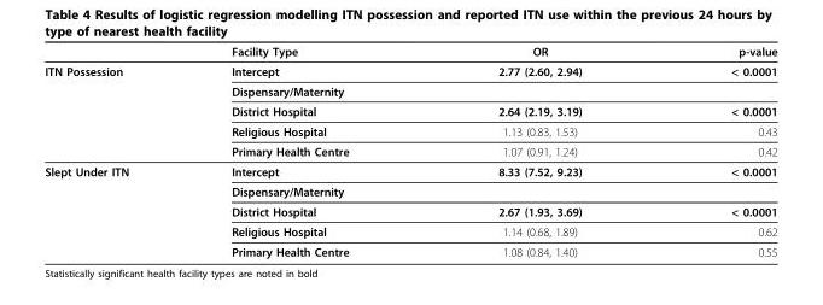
<table><thead><tr><td></td><td>Facility Type</td><td>OR</td><td>p-value</td></tr></thead><tbody><tr><td rowspan="5">ITN Possession</td><td>Intercept</td><td>2.77 (2.60, 2.94)</td><td>&lt; 0.0001</td></tr><tr><td>Dispensary/Maternity</td><td></td><td></td></tr><tr><td>District Hospital</td><td>2.64 (2.19, 3.19)</td><td>&lt; 0.0001</td></tr><tr><td>Religious Hospital</td><td>1.13 (0.83, 1.53)</td><td>0.43</td></tr><tr><td>Primary Health Centre</td><td>1.07 (0.91, 1.24)</td><td>0.42</td></tr><tr><td rowspan="5">Slept Under ITN</td><td>Intercept</td><td>8.33 (7.52, 9.23)</td><td>&lt; 0.0001</td></tr><tr><td>Dispensary/Maternity</td><td></td><td></td></tr><tr><td>District Hospital</td><td>2.67 (1.93, 3.69)</td><td>&lt; 0.0001</td></tr><tr><td>Religious Hospital</td><td>1.14 (0.68, 1.89)</td><td>0.62</td></tr><tr><td>Primary Health Centre</td><td>1.08 (0.84, 1.40)</td><td>0.55</td></tr></tbody></table>